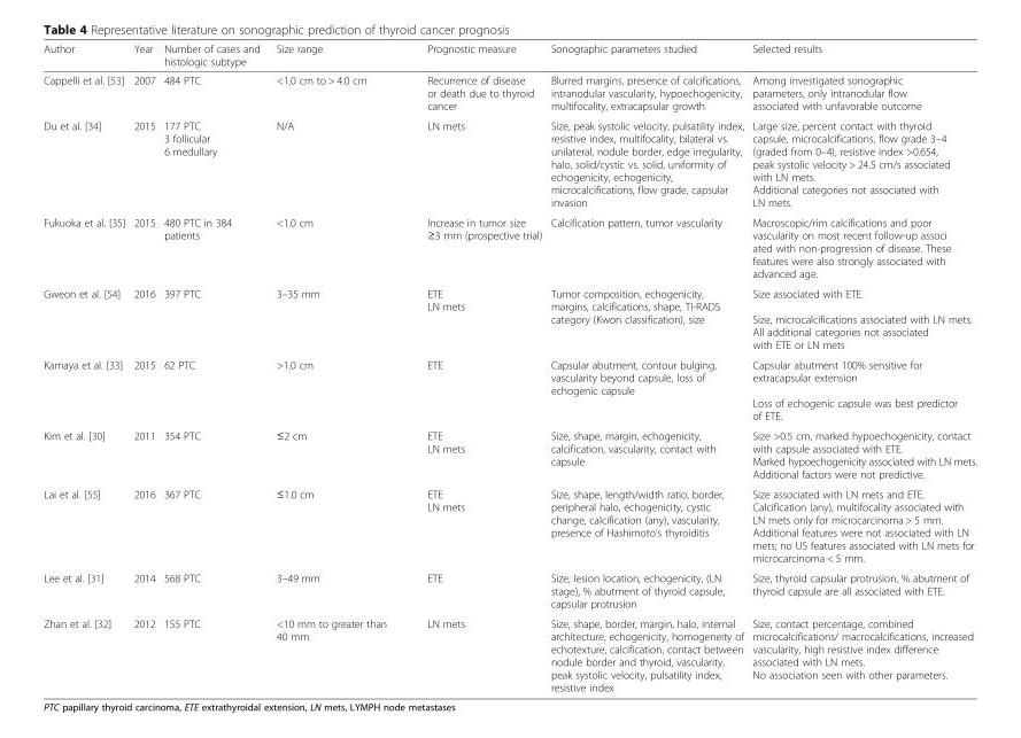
<table><thead><tr><td>Author</td><td>Year</td><td>Number of cases and histologic subtype</td><td>Size range</td><td>Prognostic measure</td><td>Sonographic parameters studied</td><td>Selected results</td></tr></thead><tbody><tr><td>Cappelli et al. [53]</td><td>2007</td><td>484 PTC</td><td>&lt;1.0 cm to &gt; 4.0 cm</td><td>Recurrence of disease or death due to thyroid cancer</td><td>Blurred margins, presence of calcifications, intranodular vascularity, hypoechogenicity, multifocality, extracapsular growth</td><td>Among investigated sonographic parameters, only intranodular flow associated with unfavorable outcome</td></tr><tr><td>Du et al. [34]</td><td>2015</td><td>177 PTC 3 follicular 6 medullary</td><td>N/A</td><td>LN mets</td><td>Size, peak systolic velocity, pulsatility index, resistive index, multifocality, bilateral vs. unilateral, nodule border, edge irregularity, halo, solid/cystic vs. solid, uniformity of echogenicity, echogenicity, microcalcifications, flow grade, capsular invasion</td><td>Large size, percent contact with thyroid capsule, microcalcifications, flow grade 3–4 (graded from 0–4), resistive index &gt;0.654, peak systolic velocity &gt; 24.5 cm/s associated with LN mets. Additional categories not associated with LN mets.</td></tr><tr><td>Fukuoka et al. [35]</td><td>2015</td><td>480 PTC in 384 patients</td><td>&lt;1.0 cm</td><td>Increase in tumor size ≥3 mm (prospective trial)</td><td>Calcification pattern, tumor vascularity</td><td>Macroscopic/rim calcifications and poor vascularity on most recent follow-up associ ated with non-progression of disease. These features were also strongly associated with advanced age.</td></tr><tr><td>Gweon et al. [54]</td><td>2016</td><td>397 PTC</td><td>3–35 mm</td><td>ETE LN mets</td><td>Tumor composition, echogenicity, margins, calcifications, shape, TI-RADS category (Kwon classification), size</td><td>Size associated with ETE. Size, microcalcifications associated with LN mets. All additional categories not associated with ETE or LN mets</td></tr><tr><td>Kamaya et al. [33]</td><td>2015</td><td>62 PTC</td><td>&gt;1.0 cm</td><td>ETE</td><td>Capsular abutment, contour bulging, vascularity beyond capsule, loss of echogenic capsule</td><td>Capsular abutment 100% sensitive for extracapsular extension Loss of echogenic capsule was best predictor of ETE.</td></tr><tr><td>Kim et al. [30]</td><td>2011</td><td>354 PTC</td><td>≤2 cm</td><td>ETE LN mets</td><td>Size, shape, margin, echogenicity, calcification, vascularity, contact with capsule</td><td>Size &gt;0.5 cm, marked hypoechogenicity, contact with capsule associated with ETE. Marked hypoechogenicity associated with LN mets. Additional factors were not predictive.</td></tr><tr><td>Lai et al. [55]</td><td>2016</td><td>367 PTC</td><td>≤1.0 cm</td><td>ETE LN mets</td><td>Size, shape, length/width ratio, border, peripheral halo, echogenicity, cystic change, calcification (any), vascularity, presence of Hashimoto’s thyroiditis</td><td>Size associated with LN mets and ETE. Calcification (any), multifocality associated with LN mets only for microcarcinoma &gt; 5 mm. Additional features were not associated with LN mets; no US features associated with LN mets for microcarcinoma &lt; 5 mm.</td></tr><tr><td>Lee et al. [31]</td><td>2014</td><td>568 PTC</td><td>3–49 mm</td><td>ETE</td><td>Size, lesion location, echogenicity, (LN stage), % abutment of thyroid capsule, capsular protrusion</td><td>Size, thyroid capsular protrusion, % abutment of thyroid capsule are all associated with ETE.</td></tr><tr><td>Zhan et al. [32]</td><td>2012</td><td>155 PTC</td><td>&lt;10 mm to greater than 40 mm</td><td>LN mets</td><td>Size, shape, border, margin, halo, internal architecture, echogenicity, homogeneity of echotexture, calcification, contact between nodule border and thyroid, vascularity, peak systolic velocity, pulsatility index, resistive index</td><td>Size, contact percentage, combined microcalcifications/ macrocalcifications, increased vascularity, high resistive index difference associated with LN mets. No association seen with other parameters.</td></tr></tbody></table>